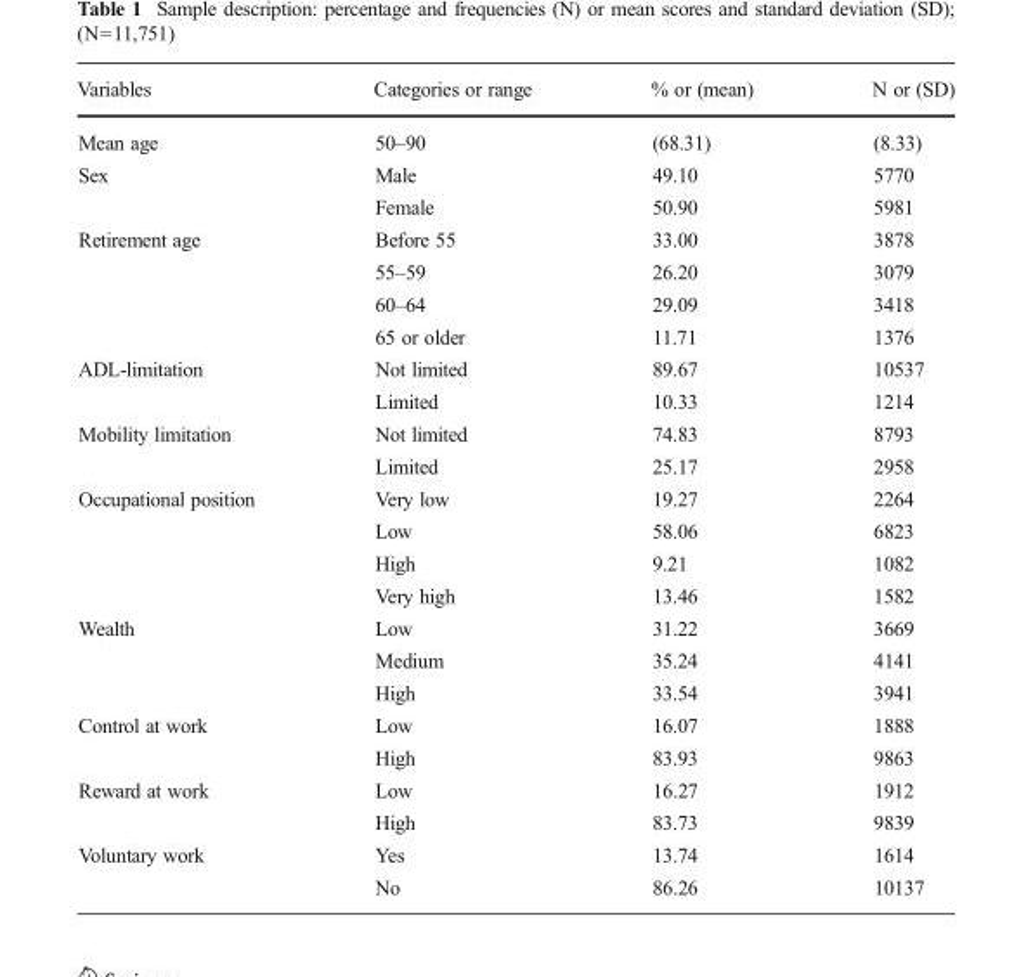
<table><thead><tr><td>Variables</td><td>Categories or range</td><td>% or (mean)</td><td>N or (SD)</td></tr></thead><tbody><tr><td>Mean age</td><td>50–90</td><td>(68.31)</td><td>(8.33)</td></tr><tr><td rowspan="2">Sex</td><td>Male</td><td>49.10</td><td>5770</td></tr><tr><td>Female</td><td>50.90</td><td>5981</td></tr><tr><td rowspan="4">Retirement age</td><td>Before 55</td><td>33.00</td><td>3878</td></tr><tr><td>55–59</td><td>26.20</td><td>3079</td></tr><tr><td>60–64</td><td>29.09</td><td>3418</td></tr><tr><td>65 or older</td><td>11.71</td><td>1376</td></tr><tr><td rowspan="2">ADL-limitation</td><td>Not limited</td><td>89.67</td><td>10537</td></tr><tr><td>Limited</td><td>10.33</td><td>1214</td></tr><tr><td rowspan="2">Mobility limitation</td><td>Not limited</td><td>74.83</td><td>8793</td></tr><tr><td>Limited</td><td>25.17</td><td>2958</td></tr><tr><td rowspan="4">Occupational position</td><td>Very low</td><td>19.27</td><td>2264</td></tr><tr><td>Low</td><td>58.06</td><td>6823</td></tr><tr><td>High</td><td>9.21</td><td>1082</td></tr><tr><td>Very high</td><td>13.46</td><td>1582</td></tr><tr><td rowspan="3">Wealth</td><td>Low</td><td>31.22</td><td>3669</td></tr><tr><td>Medium</td><td>35.24</td><td>4141</td></tr><tr><td>High</td><td>33.54</td><td>3941</td></tr><tr><td rowspan="2">Control at work</td><td>Low</td><td>16.07</td><td>1888</td></tr><tr><td>High</td><td>83.93</td><td>9863</td></tr><tr><td rowspan="2">Reward at work</td><td>Low</td><td>16.27</td><td>1912</td></tr><tr><td>High</td><td>83.73</td><td>9839</td></tr><tr><td rowspan="2">Voluntary work</td><td>Yes</td><td>13.74</td><td>1614</td></tr><tr><td>No</td><td>86.26</td><td>10137</td></tr></tbody></table>